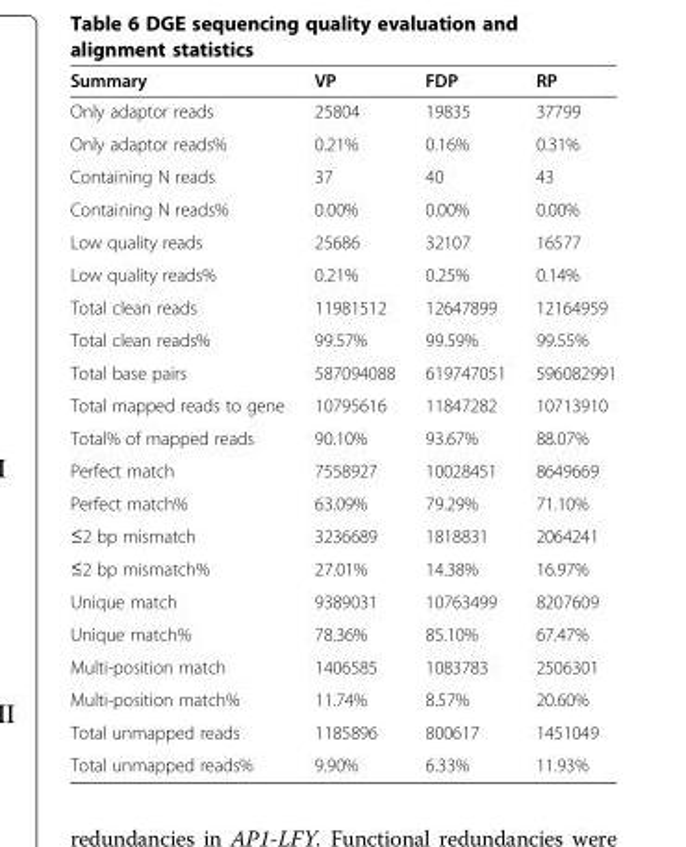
<table><thead><tr><td>Summary</td><td>VP</td><td>FDP</td><td>RP</td></tr></thead><tbody><tr><td>Only adaptor reads</td><td>25804</td><td>19835</td><td>37799</td></tr><tr><td>Only adaptor reads%</td><td>0.21%</td><td>0.16%</td><td>0.31%</td></tr><tr><td>Containing N reads</td><td>37</td><td>40</td><td>43</td></tr><tr><td>Containing N reads%</td><td>0.00%</td><td>0.00%</td><td>0.00%</td></tr><tr><td>Low quality reads</td><td>25686</td><td>32107</td><td>16577</td></tr><tr><td>Low quality reads%</td><td>0.21%</td><td>0.25%</td><td>0.14%</td></tr><tr><td>Total clean reads</td><td>11981512</td><td>12647899</td><td>12164959</td></tr><tr><td>Total clean reads%</td><td>99.57%</td><td>99.59%</td><td>99.55%</td></tr><tr><td>Total base pairs</td><td>587094088</td><td>619747051</td><td>596082991</td></tr><tr><td>Total mapped reads to gene</td><td>10795616</td><td>11847282</td><td>10713910</td></tr><tr><td>Total% of mapped reads</td><td>90.10%</td><td>93.67%</td><td>88.07%</td></tr><tr><td>Perfect match</td><td>7558927</td><td>10028451</td><td>8649669</td></tr><tr><td>Perfect match%</td><td>63.09%</td><td>79.29%</td><td>71.10%</td></tr><tr><td>≤2 bp mismatch</td><td>3236689</td><td>1818831</td><td>2064241</td></tr><tr><td>≤2 bp mismatch%</td><td>27.01%</td><td>14.38%</td><td>16.97%</td></tr><tr><td>Unique match</td><td>9389031</td><td>10763499</td><td>8207609</td></tr><tr><td>Unique match%</td><td>78.36%</td><td>85.10%</td><td>67.47%</td></tr><tr><td>Multi-position match</td><td>1406585</td><td>1083783</td><td>2506301</td></tr><tr><td>Multi-position match%</td><td>11.74%</td><td>8.57%</td><td>20.60%</td></tr><tr><td>Total unmapped reads</td><td>1185896</td><td>800617</td><td>1451049</td></tr><tr><td>Total unmapped reads%</td><td>9.90%</td><td>6.33%</td><td>11.93%</td></tr></tbody></table>